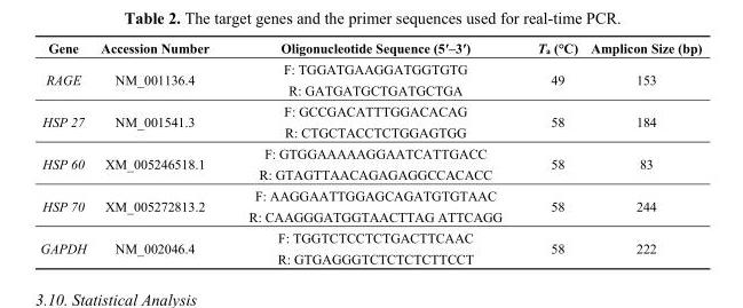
<table><thead><tr><td>Gene</td><td>Accession Number</td><td>Oligonucleotide Sequence (5′–3′)</td><td>T<sub>a</sub> (°C)</td><td>Amplicon Size (bp)</td></tr></thead><tbody><tr><td rowspan="2">RAGE</td><td rowspan="2">NM_001136.4</td><td>F: TGGATGAAGGATGGTGTG</td><td rowspan="2">49</td><td rowspan="2">153</td></tr><tr><td>R: GATGATGCTGATGCTGA</td></tr><tr><td rowspan="2">HSP 27</td><td rowspan="2">NM_001541.3</td><td>F: GCCGACATTTGGACACAG</td><td rowspan="2">58</td><td rowspan="2">184</td></tr><tr><td>R: CTGCTACCTCTGGAGTGG</td></tr><tr><td rowspan="2">HSP 60</td><td rowspan="2">XM_005246518.1</td><td>F: GTGGAAAAAGGAATCATTGACC</td><td rowspan="2">58</td><td rowspan="2">83</td></tr><tr><td>R: GTAGTTAACAGAGAGGCCACACC</td></tr><tr><td rowspan="2">HSP 70</td><td rowspan="2">XM_005272813.2</td><td>F: AAGGAATTGGAGCAGATGTGTAAC</td><td rowspan="2">58</td><td rowspan="2">244</td></tr><tr><td>R: CAAGGGATGGTAACTTAG ATTCAGG</td></tr><tr><td rowspan="2">GAPDH</td><td rowspan="2">NM_002046.4</td><td>F: TGGTCTCCTCTGACTTCAAC</td><td rowspan="2">58</td><td rowspan="2">222</td></tr><tr><td>R: GTGAGGGTCTCTCTCTTCCT</td></tr></tbody></table>